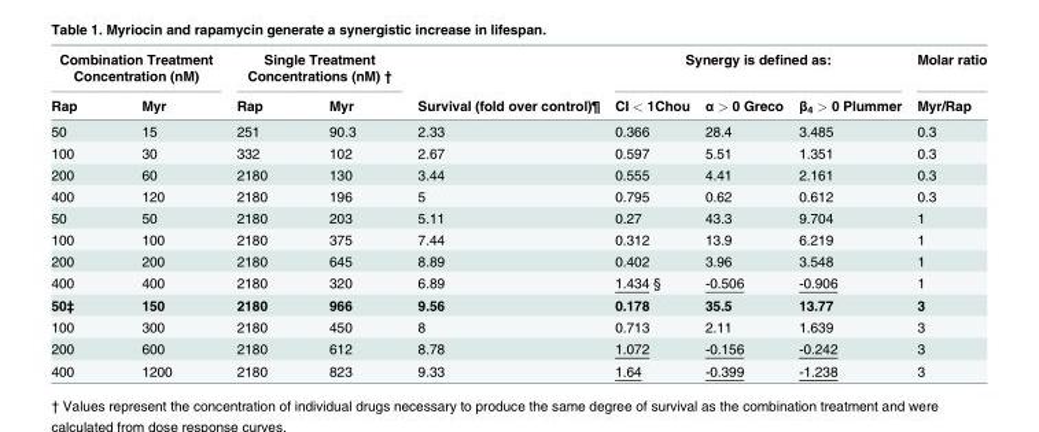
<table><thead><tr><td colspan="2">Combination Treatment Concentration (nM)</td><td colspan="2">Single Treatment Concentrations (nM) †</td><td rowspan="2">Survival (fold over control)¶</td><td colspan="3">Synergy is defined as:</td><td rowspan="2">Molar ratio Myr/Rap</td></tr><tr><td>Rap</td><td>Myr</td><td>Rap</td><td>Myr</td><td>CI &lt; 1Chou</td><td>α &gt; 0 Greco</td><td>β<sub>4</sub> &gt; 0 Plummer</td></tr></thead><tbody><tr><td>50</td><td>15</td><td>251</td><td>90.3</td><td>2.33</td><td>0.366</td><td>28.4</td><td>3.485</td><td>0.3</td></tr><tr><td>100</td><td>30</td><td>332</td><td>102</td><td>2.67</td><td>0.597</td><td>5.51</td><td>1.351</td><td>0.3</td></tr><tr><td>200</td><td>60</td><td>2180</td><td>130</td><td>3.44</td><td>0.555</td><td>4.41</td><td>2.161</td><td>0.3</td></tr><tr><td>400</td><td>120</td><td>2180</td><td>196</td><td>5</td><td>0.795</td><td>0.62</td><td>0.612</td><td>0.3</td></tr><tr><td>50</td><td>50</td><td>2180</td><td>203</td><td>5.11</td><td>0.27</td><td>43.3</td><td>9.704</td><td>1</td></tr><tr><td>100</td><td>100</td><td>2180</td><td>375</td><td>7.44</td><td>0.312</td><td>13.9</td><td>6.219</td><td>1</td></tr><tr><td>200</td><td>200</td><td>2180</td><td>645</td><td>8.89</td><td>0.402</td><td>3.96</td><td>3.548</td><td>1</td></tr><tr><td>400</td><td>400</td><td>2180</td><td>320</td><td>6.89</td><td>1.434 §</td><td>-0.506</td><td>-0.906</td><td>1</td></tr><tr><td>50‡</td><td>150</td><td>2180</td><td>966</td><td>9.56</td><td>0.178</td><td>35.5</td><td>13.77</td><td>3</td></tr><tr><td>100</td><td>300</td><td>2180</td><td>450</td><td>8</td><td>0.713</td><td>2.11</td><td>1.639</td><td>3</td></tr><tr><td>200</td><td>600</td><td>2180</td><td>612</td><td>8.78</td><td>1.072</td><td>-0.156</td><td>-0.242</td><td>3</td></tr><tr><td>400</td><td>1200</td><td>2180</td><td>823</td><td>9.33</td><td>1.64</td><td>-0.399</td><td>-1.238</td><td>3</td></tr></tbody></table>